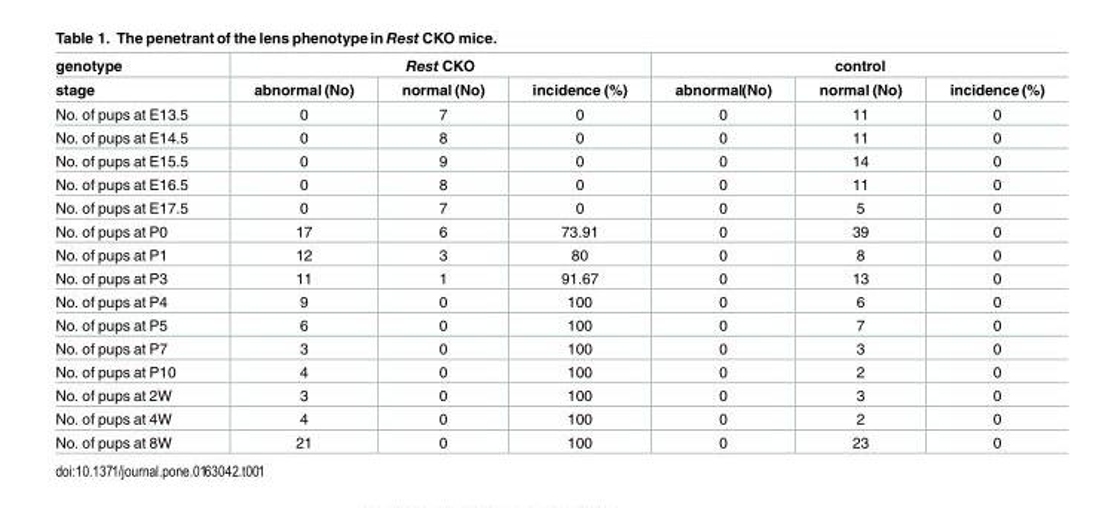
<table><thead><tr><td rowspan="2">genotype stage</td><td colspan="3">Rest CKO</td><td colspan="3">control</td></tr><tr><td>abnormal (No)</td><td>normal (No)</td><td>incidence (%)</td><td>abnormal(No)</td><td>normal (No)</td><td>incidence (%)</td></tr></thead><tbody><tr><td>No. of pups at E13.5</td><td>0</td><td>7</td><td>0</td><td>0</td><td>11</td><td>0</td></tr><tr><td>No. of pups at E14.5</td><td>0</td><td>8</td><td>0</td><td>0</td><td>11</td><td>0</td></tr><tr><td>No. of pups at E15.5</td><td>0</td><td>9</td><td>0</td><td>0</td><td>14</td><td>0</td></tr><tr><td>No. of pups at E16.5</td><td>0</td><td>8</td><td>0</td><td>0</td><td>11</td><td>0</td></tr><tr><td>No. of pups at E17.5</td><td>0</td><td>7</td><td>0</td><td>0</td><td>5</td><td>0</td></tr><tr><td>No. of pups at P0</td><td>17</td><td>6</td><td>73.91</td><td>0</td><td>39</td><td>0</td></tr><tr><td>No. of pups at P1</td><td>12</td><td>3</td><td>80</td><td>0</td><td>8</td><td>0</td></tr><tr><td>No. of pups at P3</td><td>11</td><td>1</td><td>91.67</td><td>0</td><td>13</td><td>0</td></tr><tr><td>No. of pups at P4</td><td>9</td><td>0</td><td>100</td><td>0</td><td>6</td><td>0</td></tr><tr><td>No. of pups at P5</td><td>6</td><td>0</td><td>100</td><td>0</td><td>7</td><td>0</td></tr><tr><td>No. of pups at P7</td><td>3</td><td>0</td><td>100</td><td>0</td><td>3</td><td>0</td></tr><tr><td>No. of pups at P10</td><td>4</td><td>0</td><td>100</td><td>0</td><td>2</td><td>0</td></tr><tr><td>No. of pups at 2W</td><td>3</td><td>0</td><td>100</td><td>0</td><td>3</td><td>0</td></tr><tr><td>No. of pups at 4W</td><td>4</td><td>0</td><td>100</td><td>0</td><td>2</td><td>0</td></tr><tr><td>No. of pups at 8W</td><td>21</td><td>0</td><td>100</td><td>0</td><td>23</td><td>0</td></tr></tbody></table>